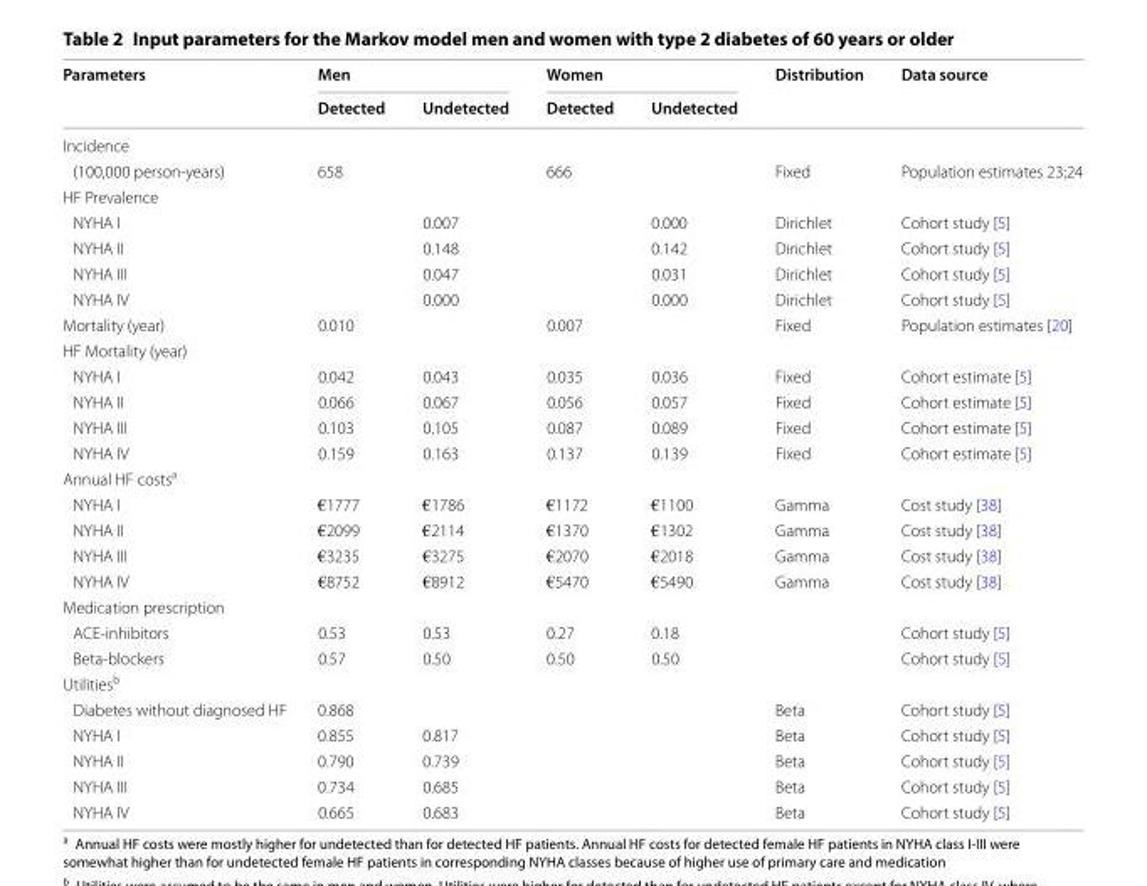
<table><thead><tr><td rowspan="2">Parameters</td><td colspan="2">Men</td><td colspan="2">Women</td><td rowspan="2">Distribution</td><td rowspan="2">Data source</td></tr><tr><td>Detected</td><td>Undetected</td><td>Detected</td><td>Undetected</td></tr></thead><tbody><tr><td colspan="7">Incidence</td></tr><tr><td>(100,000 person‑years)</td><td>658</td><td></td><td>666</td><td></td><td>Fixed</td><td>Population estimates 23;24</td></tr><tr><td colspan="7">HF Prevalence</td></tr><tr><td>NYHA I</td><td></td><td>0.007</td><td></td><td>0.000</td><td>Dirichlet</td><td>Cohort study [5]</td></tr><tr><td>NYHA II</td><td></td><td>0.148</td><td></td><td>0.142</td><td>Dirichlet</td><td>Cohort study [5]</td></tr><tr><td>NYHA III</td><td></td><td>0.047</td><td></td><td>0.031</td><td>Dirichlet</td><td>Cohort study [5]</td></tr><tr><td>NYHA IV</td><td></td><td>0.000</td><td></td><td>0.000</td><td>Dirichlet</td><td>Cohort study [5]</td></tr><tr><td>Mortality (year)</td><td>0.010</td><td></td><td>0.007</td><td></td><td>Fixed</td><td>Population estimates [20]</td></tr><tr><td colspan="7">HF Mortality (year)</td></tr><tr><td>NYHA I</td><td>0.042</td><td>0.043</td><td>0.035</td><td>0.036</td><td>Fixed</td><td>Cohort estimate [5]</td></tr><tr><td>NYHA II</td><td>0.066</td><td>0.067</td><td>0.056</td><td>0.057</td><td>Fixed</td><td>Cohort estimate [5]</td></tr><tr><td>NYHA III</td><td>0.103</td><td>0.105</td><td>0.087</td><td>0.089</td><td>Fixed</td><td>Cohort estimate [5]</td></tr><tr><td>NYHA IV</td><td>0.159</td><td>0.163</td><td>0.137</td><td>0.139</td><td>Fixed</td><td>Cohort estimate [5]</td></tr><tr><td colspan="7">Annual HF costs<sup>a</sup></td></tr><tr><td>NYHA I</td><td>€1777</td><td>€1786</td><td>€1172</td><td>€1100</td><td>Gamma</td><td>Cost study [38]</td></tr><tr><td>NYHA II</td><td>€2099</td><td>€2114</td><td>€1370</td><td>€1302</td><td>Gamma</td><td>Cost study [38]</td></tr><tr><td>NYHA III</td><td>€3235</td><td>€3275</td><td>€2070</td><td>€2018</td><td>Gamma</td><td>Cost study [38]</td></tr><tr><td>NYHA IV</td><td>€8752</td><td>€8912</td><td>€5470</td><td>€5490</td><td>Gamma</td><td>Cost study [38]</td></tr><tr><td colspan="7">Medication prescription</td></tr><tr><td>ACE‑inhibitors</td><td>0.53</td><td>0.53</td><td>0.27</td><td>0.18</td><td></td><td>Cohort study [5]</td></tr><tr><td>Beta‑blockers</td><td>0.57</td><td>0.50</td><td>0.50</td><td>0.50</td><td></td><td>Cohort study [5]</td></tr><tr><td colspan="7">Utilities<sup>b</sup></td></tr><tr><td>Diabetes without diagnosed HF</td><td>0.868</td><td></td><td></td><td></td><td>Beta</td><td>Cohort study [5]</td></tr><tr><td>NYHA I</td><td>0.855</td><td>0.817</td><td></td><td></td><td>Beta</td><td>Cohort study [5]</td></tr><tr><td>NYHA II</td><td>0.790</td><td>0.739</td><td></td><td></td><td>Beta</td><td>Cohort study [5]</td></tr><tr><td>NYHA III</td><td>0.734</td><td>0.685</td><td></td><td></td><td>Beta</td><td>Cohort study [5]</td></tr><tr><td>NYHA IV</td><td>0.665</td><td>0.683</td><td></td><td></td><td>Beta</td><td>Cohort study [5]</td></tr></tbody></table>